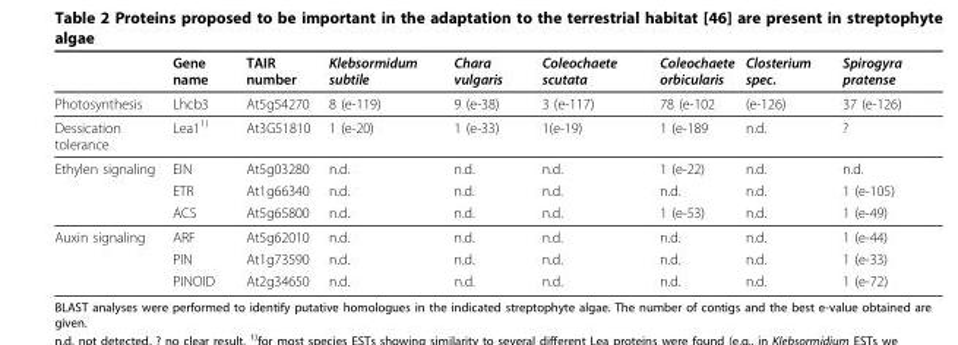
<table><thead><tr><td></td><td>Gene name</td><td>TAIR number</td><td>Klebsormidum subtile</td><td>Chara vulgaris</td><td>Coleochaete scutata</td><td>Coleochaete orbicularis</td><td>Closterium spec.</td><td>Spirogyra pratense</td></tr></thead><tbody><tr><td>Photosynthesis</td><td>Lhcb3</td><td>At5g54270</td><td>8 (e-119)</td><td>9 (e-38)</td><td>3 (e-117)</td><td>78 (e-102</td><td>(e-126)</td><td>37 (e-126)</td></tr><tr><td>Dessication tolerance</td><td>Lea1<sup>1)</sup></td><td>At3G51810</td><td>1 (e-20)</td><td>1 (e-33)</td><td>1(e-19)</td><td>1 (e-189</td><td>n.d.</td><td>?</td></tr><tr><td rowspan="3">Ethylen signaling</td><td>EIN</td><td>At5g03280</td><td>n.d.</td><td>n.d.</td><td>n.d.</td><td>1 (e-22)</td><td>n.d.</td><td>n.d.</td></tr><tr><td>ETR</td><td>At1g66340</td><td>n.d.</td><td>n.d.</td><td>n.d.</td><td>n.d.</td><td>n.d.</td><td>1 (e-105)</td></tr><tr><td>ACS</td><td>At5g65800</td><td>n.d.</td><td>n.d.</td><td>n.d.</td><td>1 (e-53)</td><td>n.d.</td><td>1 (e-49)</td></tr><tr><td rowspan="3">Auxin signaling</td><td>ARF</td><td>At5g62010</td><td>n.d.</td><td>n.d.</td><td>n.d.</td><td>n.d.</td><td>n.d.</td><td>1 (e-44)</td></tr><tr><td>PIN</td><td>At1g73590</td><td>n.d.</td><td>n.d.</td><td>n.d.</td><td>n.d.</td><td>n.d.</td><td>1 (e-33)</td></tr><tr><td>PINOID</td><td>At2g34650</td><td>n.d.</td><td>n.d.</td><td>n.d.</td><td>n.d.</td><td>n.d.</td><td>1 (e-72)</td></tr></tbody></table>